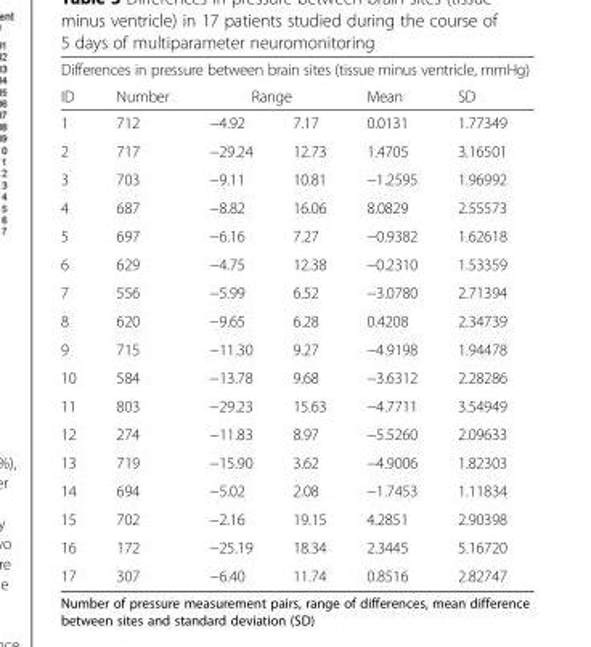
<table><thead><tr><td colspan="6">Differences in pressure between brain sites (tissue minus ventricle, mmHg)</td></tr><tr><td rowspan="2">ID 1</td><td rowspan="2">Number 712</td><td colspan="2">Range</td><td rowspan="2">Mean 0.0131</td><td rowspan="2">SD 1.77349</td></tr><tr><td>−4.92</td><td>7.17</td></tr></thead><tbody><tr><td>2</td><td>717</td><td>−29.24</td><td>12.73</td><td>1.4705</td><td>3.16501</td></tr><tr><td>3</td><td>703</td><td>−9.11</td><td>10.81</td><td>−1.2595</td><td>1.96992</td></tr><tr><td>4</td><td>687</td><td>−8.82</td><td>16.06</td><td>8.0829</td><td>2.55573</td></tr><tr><td>5</td><td>697</td><td>−6.16</td><td>7.27</td><td>−0.9382</td><td>1.62618</td></tr><tr><td>6</td><td>629</td><td>−4.75</td><td>12.38</td><td>−0.2310</td><td>1.53359</td></tr><tr><td>7</td><td>556</td><td>−5.99</td><td>6.52</td><td>−3.0780</td><td>2.71394</td></tr><tr><td>8</td><td>620</td><td>−9.65</td><td>6.28</td><td>0.4208</td><td>2.34739</td></tr><tr><td>9</td><td>715</td><td>−11.30</td><td>9.27</td><td>−4.9198</td><td>1.94478</td></tr><tr><td>10</td><td>584</td><td>−13.78</td><td>9.68</td><td>−3.6312</td><td>2.28286</td></tr><tr><td>11</td><td>803</td><td>−29.23</td><td>15.63</td><td>−4.7711</td><td>3.54949</td></tr><tr><td>12</td><td>274</td><td>−11.83</td><td>8.97</td><td>−5.5260</td><td>2.09633</td></tr><tr><td>13</td><td>719</td><td>−15.90</td><td>3.62</td><td>−4.9006</td><td>1.82303</td></tr><tr><td>14</td><td>694</td><td>−5.02</td><td>2.08</td><td>−1.7453</td><td>1.11834</td></tr><tr><td>15</td><td>702</td><td>−2.16</td><td>19.15</td><td>4.2851</td><td>2.90398</td></tr><tr><td>16</td><td>172</td><td>−25.19</td><td>18.34</td><td>2.3445</td><td>5.16720</td></tr><tr><td>17</td><td>307</td><td>−6.40</td><td>11.74</td><td>0.8516</td><td>2.82747</td></tr></tbody></table>